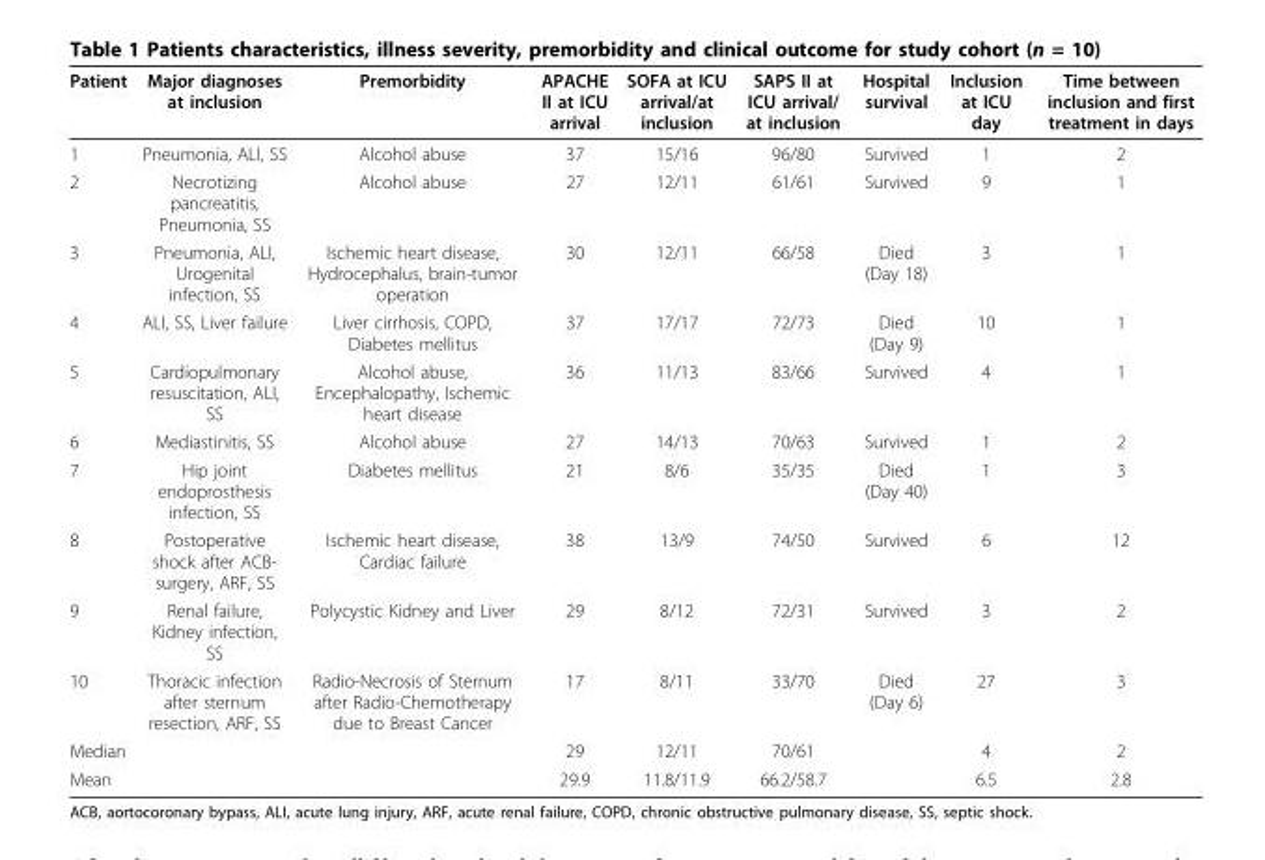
<table><thead><tr><td>Patient</td><td>Major diagnoses at inclusion</td><td>Premorbidity</td><td>APACHE II at ICU arrival</td><td>SOFA at ICU arrival/at inclusion</td><td>SAPS II at ICU arrival/ at inclusion</td><td>Hospital survival</td><td>Inclusion at ICU day</td><td>Time between inclusion and first treatment in days</td></tr></thead><tbody><tr><td>1</td><td>Pneumonia, ALI, SS</td><td>Alcohol abuse</td><td>37</td><td>15/16</td><td>96/80</td><td>Survived</td><td>1</td><td>2</td></tr><tr><td>2</td><td>Necrotizing pancreatitis, Pneumonia, SS</td><td>Alcohol abuse</td><td>27</td><td>12/11</td><td>61/61</td><td>Survived</td><td>9</td><td>1</td></tr><tr><td>3</td><td>Pneumonia, ALI, Urogenital infection, SS</td><td>Ischemic heart disease, Hydrocephalus, brain-tumor operation</td><td>30</td><td>12/11</td><td>66/58</td><td>Died (Day 18)</td><td>3</td><td>1</td></tr><tr><td>4</td><td>ALI, SS, Liver failure</td><td>Liver cirrhosis, COPD, Diabetes mellitus</td><td>37</td><td>17/17</td><td>72/73</td><td>Died (Day 9)</td><td>10</td><td>1</td></tr><tr><td>5</td><td>Cardiopulmonary resuscitation, ALI, SS</td><td>Alcohol abuse, Encephalopathy, Ischemic heart disease</td><td>36</td><td>11/13</td><td>83/66</td><td>Survived</td><td>4</td><td>1</td></tr><tr><td>6</td><td>Mediastinitis, SS</td><td>Alcohol abuse</td><td>27</td><td>14/13</td><td>70/63</td><td>Survived</td><td>1</td><td>2</td></tr><tr><td>7</td><td>Hip joint endoprosthesis infection, SS</td><td>Diabetes mellitus</td><td>21</td><td>8/6</td><td>35/35</td><td>Died (Day 40)</td><td>1</td><td>3</td></tr><tr><td>8</td><td>Postoperative shock after ACB- surgery, ARF, SS</td><td>Ischemic heart disease, Cardiac failure</td><td>38</td><td>13/9</td><td>74/50</td><td>Survived</td><td>6</td><td>12</td></tr><tr><td>9</td><td>Renal failure, Kidney infection, SS</td><td>Polycystic Kidney and Liver</td><td>29</td><td>8/12</td><td>72/31</td><td>Survived</td><td>3</td><td>2</td></tr><tr><td>10</td><td>Thoracic infection after sternum resection, ARF, SS</td><td>Radio-Necrosis of Sternum after Radio-Chemotherapy due to Breast Cancer</td><td>17</td><td>8/11</td><td>33/70</td><td>Died (Day 6)</td><td>27</td><td>3</td></tr><tr><td>Median</td><td></td><td></td><td>29</td><td>12/11</td><td>70/61</td><td></td><td>4</td><td>2</td></tr><tr><td>Mean</td><td></td><td></td><td>29.9</td><td>11.8/11.9</td><td>66.2/58.7</td><td></td><td>6.5</td><td>2.8</td></tr></tbody></table>